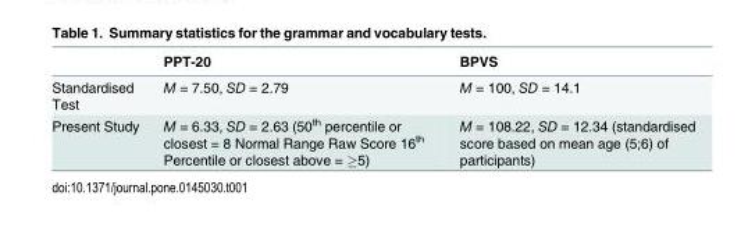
<table><thead><tr><td></td><td>PPT-20</td><td>BPVS</td></tr></thead><tbody><tr><td>Standardised Test</td><td>M = 7.50, SD = 2.79</td><td>M = 100, SD = 14.1</td></tr><tr><td>Present Study</td><td>M = 6.33, SD = 2.63 (50<sup>th</sup> percentile or closest = 8 Normal Range Raw Score 16<sup>th</sup> Percentile or closest above = ≥5)</td><td>M = 108.22, SD = 12.34 (standardised score based on mean age (5;6) of participants)</td></tr></tbody></table>